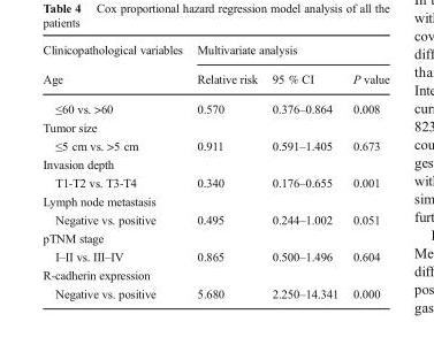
<table><thead><tr><td rowspan="2">Clinicopathological variables Age</td><td colspan="3">Multivariate analysis</td></tr><tr><td>Relative risk</td><td>95 % CI</td><td>P value</td></tr></thead><tbody><tr><td>≤60 vs. &gt;60</td><td>0.570</td><td>0.376–0.864</td><td>0.008</td></tr><tr><td colspan="4">Tumor size</td></tr><tr><td>≤5 cm vs. &gt;5 cm</td><td>0.911</td><td>0.591–1.405</td><td>0.673</td></tr><tr><td colspan="4">Invasion depth</td></tr><tr><td>T1-T2 vs. T3-T4</td><td>0.340</td><td>0.176–0.655</td><td>0.001</td></tr><tr><td colspan="4">Lymph node metastasis</td></tr><tr><td>Negative vs. positive</td><td>0.495</td><td>0.244–1.002</td><td>0.051</td></tr><tr><td colspan="4">pTNM stage</td></tr><tr><td>I–II vs. III–IV</td><td>0.865</td><td>0.500–1.496</td><td>0.604</td></tr><tr><td colspan="4">R-cadherin expression</td></tr><tr><td>Negative vs. positive</td><td>5.680</td><td>2.250–14.341</td><td>0.000</td></tr></tbody></table>